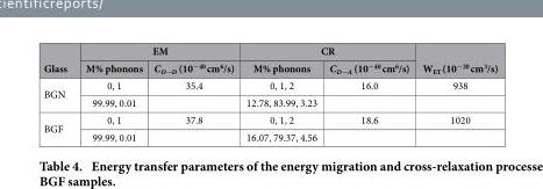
<table><thead><tr><td rowspan="2">Glass</td><td colspan="2">EM</td><td colspan="2">CR</td><td rowspan="2">W<sub>ET</sub> (10<sup>−20</sup> cm<sup>3</sup>/s)</td></tr><tr><td>M% phonons</td><td>C<sub>D−D</sub> (10<sup>−40</sup> cm<sup>6</sup>/s)</td><td>M% phonons</td><td>C<sub>D−A</sub> (10<sup>−40</sup> cm<sup>6</sup>/s)</td></tr></thead><tbody><tr><td rowspan="2">BGN</td><td>0, 1</td><td>35.4</td><td>0, 1, 2</td><td>16.0</td><td>938</td></tr><tr><td>99.99, 0.01</td><td></td><td>12.78, 83.99, 3.23</td><td></td><td></td></tr><tr><td rowspan="2">BGF</td><td>0, 1</td><td>37.8</td><td>0, 1, 2</td><td>18.6</td><td>1020</td></tr><tr><td>99.99, 0.01</td><td></td><td>16.07, 79.37, 4.56</td><td></td><td></td></tr></tbody></table>